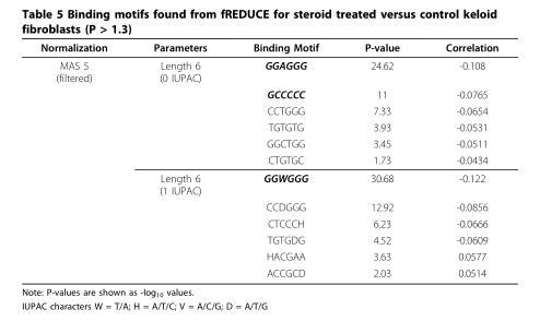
<table><thead><tr><td>Normalization</td><td>Parameters</td><td>Binding Motif</td><td>P-value</td><td>Correlation</td></tr></thead><tbody><tr><td rowspan="12">MAS 5 (filtered)</td><td>Length 6 (0 IUPAC)</td><td>GGAGGG</td><td>24.62</td><td>-0.108</td></tr><tr><td></td><td>GCCCCC</td><td>11</td><td>-0.0765</td></tr><tr><td></td><td>CCTGGG</td><td>7.33</td><td>-0.0654</td></tr><tr><td></td><td>TGTGTG</td><td>3.93</td><td>-0.0531</td></tr><tr><td></td><td>GGCTGG</td><td>3.45</td><td>-0.0511</td></tr><tr><td></td><td>CTGTGC</td><td>1.73</td><td>-0.0434</td></tr><tr><td>Length 6 (1 IUPAC)</td><td>GGWGGG</td><td>30.68</td><td>-0.122</td></tr><tr><td></td><td>CCDGGG</td><td>12.92</td><td>-0.0856</td></tr><tr><td></td><td>CTCCCH</td><td>6.23</td><td>-0.0666</td></tr><tr><td></td><td>TGTGDG</td><td>4.52</td><td>-0.0609</td></tr><tr><td></td><td>HACGAA</td><td>3.63</td><td>0.0577</td></tr><tr><td></td><td>ACCGCD</td><td>2.03</td><td>0.0514</td></tr></tbody></table>